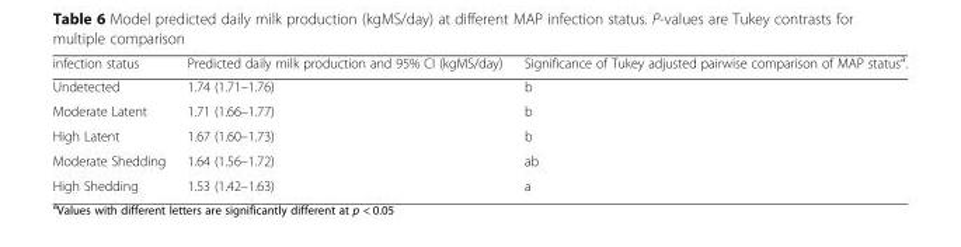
<table><thead><tr><td>infection status</td><td>Predicted daily milk production and 95% CI (kgMS/day)</td><td>Significance of Tukey adjusted pairwise comparison of MAP status<sup>a</sup>.</td></tr></thead><tbody><tr><td>Undetected</td><td>1.74 (1.71–1.76)</td><td>b</td></tr><tr><td>Moderate Latent</td><td>1.71 (1.66–1.77)</td><td>b</td></tr><tr><td>High Latent</td><td>1.67 (1.60–1.73)</td><td>b</td></tr><tr><td>Moderate Shedding</td><td>1.64 (1.56–1.72)</td><td>ab</td></tr><tr><td>High Shedding</td><td>1.53 (1.42–1.63)</td><td>a</td></tr></tbody></table>